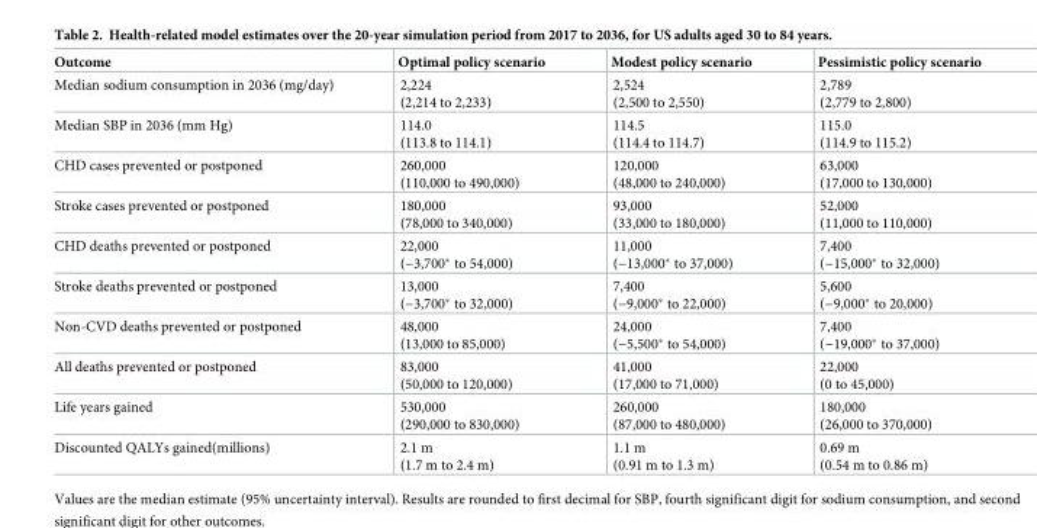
<table><thead><tr><td>Outcome</td><td>Optimal policy scenario</td><td>Modest policy scenario</td><td>Pessimistic policy scenario</td></tr></thead><tbody><tr><td>Median sodium consumption in 2036 (mg/day)</td><td>2,224 (2,214 to 2,233)</td><td>2,524 (2,500 to 2,550)</td><td>2,789 (2,779 to 2,800)</td></tr><tr><td>Median SBP in 2036 (mm Hg)</td><td>114.0 (113.8 to 114.1)</td><td>114.5 (114.4 to 114.7)</td><td>115.0 (114.9 to 115.2)</td></tr><tr><td>CHD cases prevented or postponed</td><td>260,000 (110,000 to 490,000)</td><td>120,000 (48,000 to 240,000)</td><td>63,000 (17,000 to 130,000)</td></tr><tr><td>Stroke cases prevented or postponed</td><td>180,000 (78,000 to 340,000)</td><td>93,000 (33,000 to 180,000)</td><td>52,000 (11,000 to 110,000)</td></tr><tr><td>CHD deaths prevented or postponed</td><td>22,000 (−3,700* to 54,000)</td><td>11,000 (−13,000* to 37,000)</td><td>7,400 (−15,000* to 32,000)</td></tr><tr><td>Stroke deaths prevented or postponed</td><td>13,000 (−3,700* to 32,000)</td><td>7,400 (−9,000* to 22,000)</td><td>5,600 (−9,000* to 20,000)</td></tr><tr><td>Non-CVD deaths prevented or postponed</td><td>48,000 (13,000 to 85,000)</td><td>24,000 (−5,500* to 54,000)</td><td>7,400 (−19,000* to 37,000)</td></tr><tr><td>All deaths prevented or postponed</td><td>83,000 (50,000 to 120,000)</td><td>41,000 (17,000 to 71,000)</td><td>22,000 (0 to 45,000)</td></tr><tr><td>Life years gained</td><td>530,000 (290,000 to 830,000)</td><td>260,000 (87,000 to 480,000)</td><td>180,000 (26,000 to 370,000)</td></tr><tr><td>Discounted QALYs gained(millions)</td><td>2.1 m (1.7 m to 2.4 m)</td><td>1.1 m (0.91 m to 1.3 m)</td><td>0.69 m (0.54 m to 0.86 m)</td></tr></tbody></table>